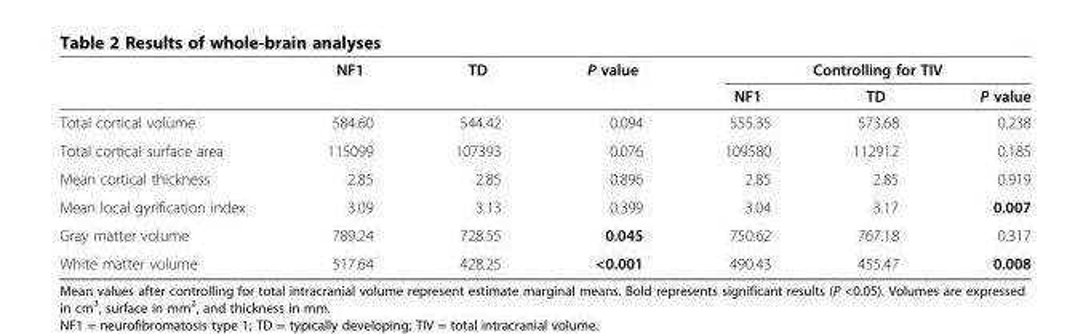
<table><thead><tr><td rowspan="2"></td><td rowspan="2">NF1</td><td rowspan="2">TD</td><td rowspan="2">P value</td><td colspan="3">Controlling for TIV</td></tr><tr><td>NF1</td><td>TD</td><td>P value</td></tr></thead><tbody><tr><td>Total cortical volume</td><td>584.60</td><td>544.42</td><td>0.094</td><td>555.35</td><td>573.68</td><td>0.238</td></tr><tr><td>Total cortical surface area</td><td>115099</td><td>107393</td><td>0.076</td><td>109580</td><td>112912</td><td>0.185</td></tr><tr><td>Mean cortical thickness</td><td>2.85</td><td>2.85</td><td>0.896</td><td>2.85</td><td>2.85</td><td>0.919</td></tr><tr><td>Mean local gyrification index</td><td>3.09</td><td>3.13</td><td>0.399</td><td>3.04</td><td>3.17</td><td>0.007</td></tr><tr><td>Gray matter volume</td><td>789.24</td><td>728.55</td><td>0.045</td><td>750.62</td><td>767.18</td><td>0.317</td></tr><tr><td>White matter volume</td><td>517.64</td><td>428.25</td><td>&lt;0.001</td><td>490.43</td><td>455.47</td><td>0.008</td></tr></tbody></table>